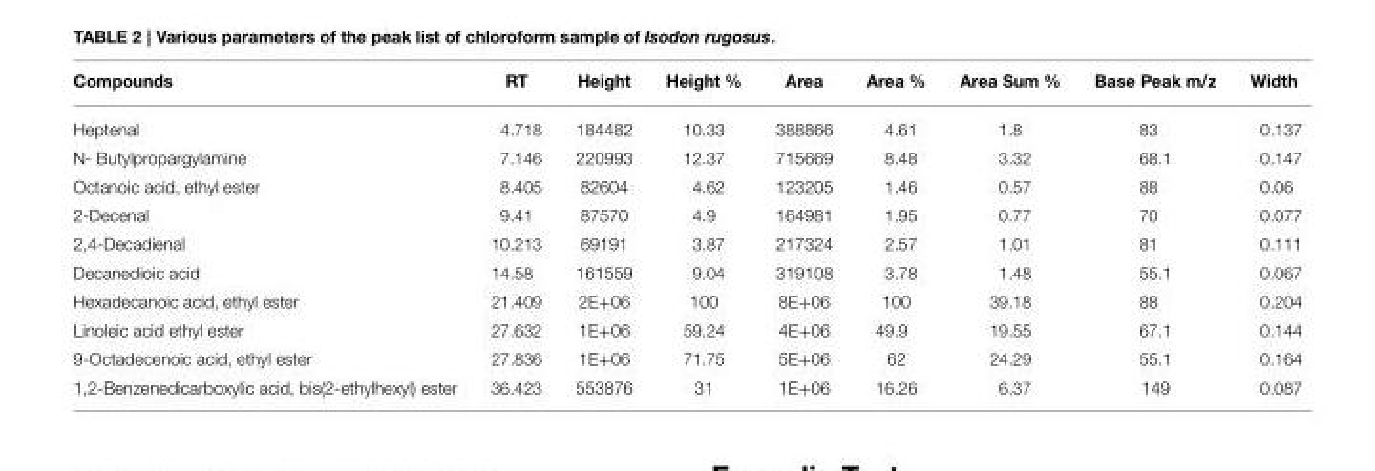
<table><thead><tr><td>Compounds</td><td>RT</td><td>Height</td><td>Height %</td><td>Area</td><td>Area %</td><td>Area Sum %</td><td>Base Peak m/z</td><td>Width</td></tr></thead><tbody><tr><td>Heptenal</td><td>4.718</td><td>184482</td><td>10.33</td><td>388866</td><td>4.61</td><td>1.8</td><td>83</td><td>0.137</td></tr><tr><td>N- Butylpropargylamine</td><td>7.146</td><td>220993</td><td>12.37</td><td>715669</td><td>8.48</td><td>3.32</td><td>68.1</td><td>0.147</td></tr><tr><td>Octanoic acid, ethyl ester</td><td>8.405</td><td>82604</td><td>4.62</td><td>123205</td><td>1.46</td><td>0.57</td><td>88</td><td>0.06</td></tr><tr><td>2-Decenal</td><td>9.41</td><td>87570</td><td>4.9</td><td>164981</td><td>1.95</td><td>0.77</td><td>70</td><td>0.077</td></tr><tr><td>2,4-Decadienal</td><td>10.213</td><td>69191</td><td>3.87</td><td>217324</td><td>2.57</td><td>1.01</td><td>81</td><td>0.111</td></tr><tr><td>Decanedioic acid</td><td>14.58</td><td>161559</td><td>9.04</td><td>319108</td><td>3.78</td><td>1.48</td><td>55.1</td><td>0.067</td></tr><tr><td>Hexadecanoic acid, ethyl ester</td><td>21.409</td><td>2E+06</td><td>100</td><td>8E+06</td><td>100</td><td>39.18</td><td>88</td><td>0.204</td></tr><tr><td>Linoleic acid ethyl ester</td><td>27.632</td><td>1E+06</td><td>59.24</td><td>4E+06</td><td>49.9</td><td>19.55</td><td>67.1</td><td>0.144</td></tr><tr><td>9-Octadecenoic acid, ethyl ester</td><td>27.836</td><td>1E+06</td><td>71.75</td><td>5E+06</td><td>62</td><td>24.29</td><td>55.1</td><td>0.164</td></tr><tr><td>1,2-Benzenedicarboxylic acid, bis(2-ethylhexyl) ester</td><td>36.423</td><td>553876</td><td>31</td><td>1E+06</td><td>16.26</td><td>6.37</td><td>149</td><td>0.087</td></tr></tbody></table>